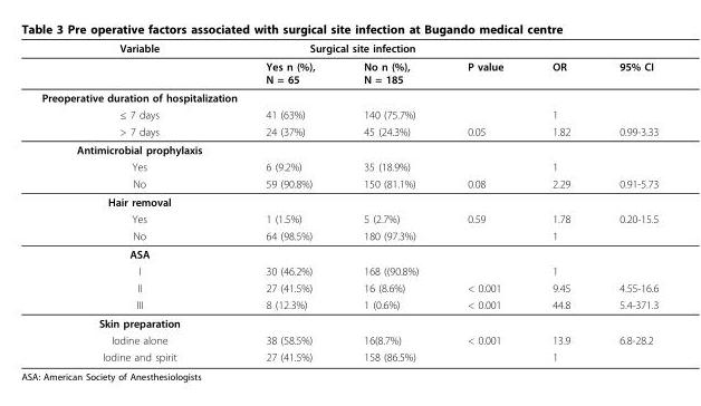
<table><thead><tr><td rowspan="2">Variable</td><td colspan="2">Surgical site infection</td><td rowspan="2">P value</td><td rowspan="2">OR</td><td rowspan="2">95% CI</td></tr><tr><td>Yes n (%), N = 65</td><td>No n (%), N = 185</td></tr></thead><tbody><tr><td colspan="6">Preoperative duration of hospitalization</td></tr><tr><td>≤ 7 days</td><td>41 (63%)</td><td>140 (75.7%)</td><td></td><td>1</td><td></td></tr><tr><td>&gt; 7 days</td><td>24 (37%)</td><td>45 (24.3%)</td><td>0.05</td><td>1.82</td><td>0.99-3.33</td></tr><tr><td colspan="6">Antimicrobial prophylaxis</td></tr><tr><td>Yes</td><td>6 (9.2%)</td><td>35 (18.9%)</td><td></td><td>1</td><td></td></tr><tr><td>No</td><td>59 (90.8%)</td><td>150 (81.1%)</td><td>0.08</td><td>2.29</td><td>0.91-5.73</td></tr><tr><td colspan="6">Hair removal</td></tr><tr><td>Yes</td><td>1 (1.5%)</td><td>5 (2.7%)</td><td>0.59</td><td>1.78</td><td>0.20-15.5</td></tr><tr><td>No</td><td>64 (98.5%)</td><td>180 (97.3%)</td><td></td><td>1</td><td></td></tr><tr><td colspan="6">ASA</td></tr><tr><td>I</td><td>30 (46.2%)</td><td>168 ((90.8%)</td><td></td><td>1</td><td></td></tr><tr><td>II</td><td>27 (41.5%)</td><td>16 (8.6%)</td><td>&lt; 0.001</td><td>9.45</td><td>4.55-16.6</td></tr><tr><td>III</td><td>8 (12.3%)</td><td>1 (0.6%)</td><td>&lt; 0.001</td><td>44.8</td><td>5.4-371.3</td></tr><tr><td colspan="6">Skin preparation</td></tr><tr><td>Iodine alone</td><td>38 (58.5%)</td><td>16(8.7%)</td><td>&lt; 0.001</td><td>13.9</td><td>6.8-28.2</td></tr><tr><td>Iodine and spirit</td><td>27 (41.5%)</td><td>158 (86.5%)</td><td></td><td>1</td><td></td></tr></tbody></table>